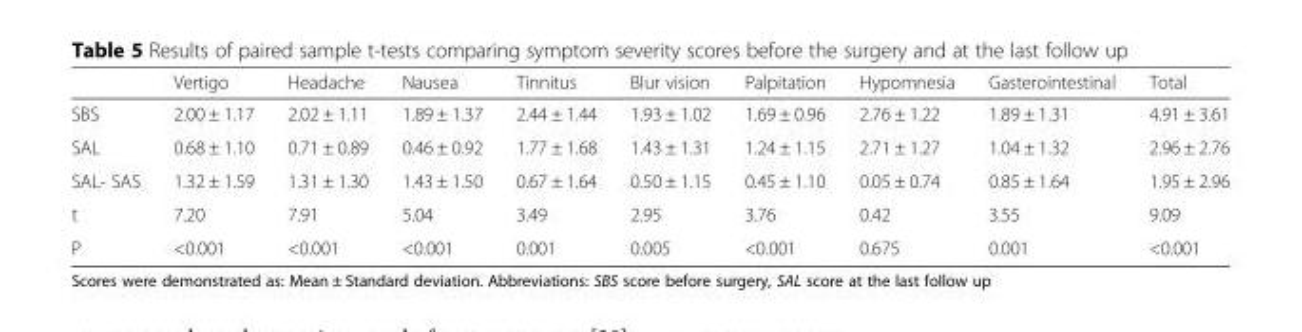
<table><thead><tr><td></td><td>Vertigo</td><td>Headache</td><td>Nausea</td><td>Tinnitus</td><td>Blur vision</td><td>Palpitation</td><td>Hypomnesia</td><td>Gasterointestinal</td><td>Total</td></tr></thead><tbody><tr><td>SBS</td><td>2.00 ± 1.17</td><td>2.02 ± 1.11</td><td>1.89 ± 1.37</td><td>2.44 ± 1.44</td><td>1.93 ± 1.02</td><td>1.69 ± 0.96</td><td>2.76 ± 1.22</td><td>1.89 ± 1.31</td><td>4.91 ± 3.61</td></tr><tr><td>SAL</td><td>0.68 ± 1.10</td><td>0.71 ± 0.89</td><td>0.46 ± 0.92</td><td>1.77 ± 1.68</td><td>1.43 ± 1.31</td><td>1.24 ± 1.15</td><td>2.71 ± 1.27</td><td>1.04 ± 1.32</td><td>2.96 ± 2.76</td></tr><tr><td>SAL- SAS</td><td>1.32 ± 1.59</td><td>1.31 ± 1.30</td><td>1.43 ± 1.50</td><td>0.67 ± 1.64</td><td>0.50 ± 1.15</td><td>0.45 ± 1.10</td><td>0.05 ± 0.74</td><td>0.85 ± 1.64</td><td>1.95 ± 2.96</td></tr><tr><td>t</td><td>7.20</td><td>7.91</td><td>5.04</td><td>3.49</td><td>2.95</td><td>3.76</td><td>0.42</td><td>3.55</td><td>9.09</td></tr><tr><td>P</td><td>&lt;0.001</td><td>&lt;0.001</td><td>&lt;0.001</td><td>0.001</td><td>0.005</td><td>&lt;0.001</td><td>0.675</td><td>0.001</td><td>&lt;0.001</td></tr></tbody></table>